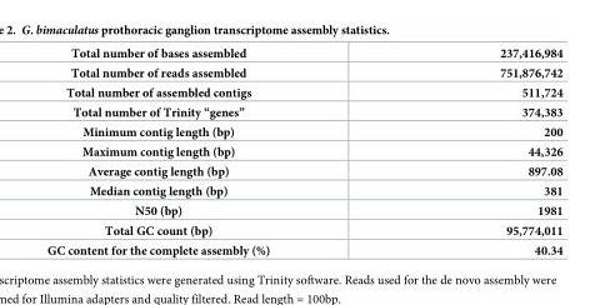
<table><tbody><tr><td>Total number of bases assembled</td><td>237,416,984</td></tr><tr><td>Total number of reads assembled</td><td>751,876,742</td></tr><tr><td>Total number of assembled contigs</td><td>511,724</td></tr><tr><td>Total number of Trinity “genes”</td><td>374,383</td></tr><tr><td>Minimum contig length (bp)</td><td>200</td></tr><tr><td>Maximum contig length (bp)</td><td>44,326</td></tr><tr><td>Average contig length (bp)</td><td>897.08</td></tr><tr><td>Median contig length (bp)</td><td>381</td></tr><tr><td>N50 (bp)</td><td>1981</td></tr><tr><td>Total GC count (bp)</td><td>95,774,011</td></tr><tr><td>GC content for the complete assembly (%)</td><td>40.34</td></tr></tbody></table>